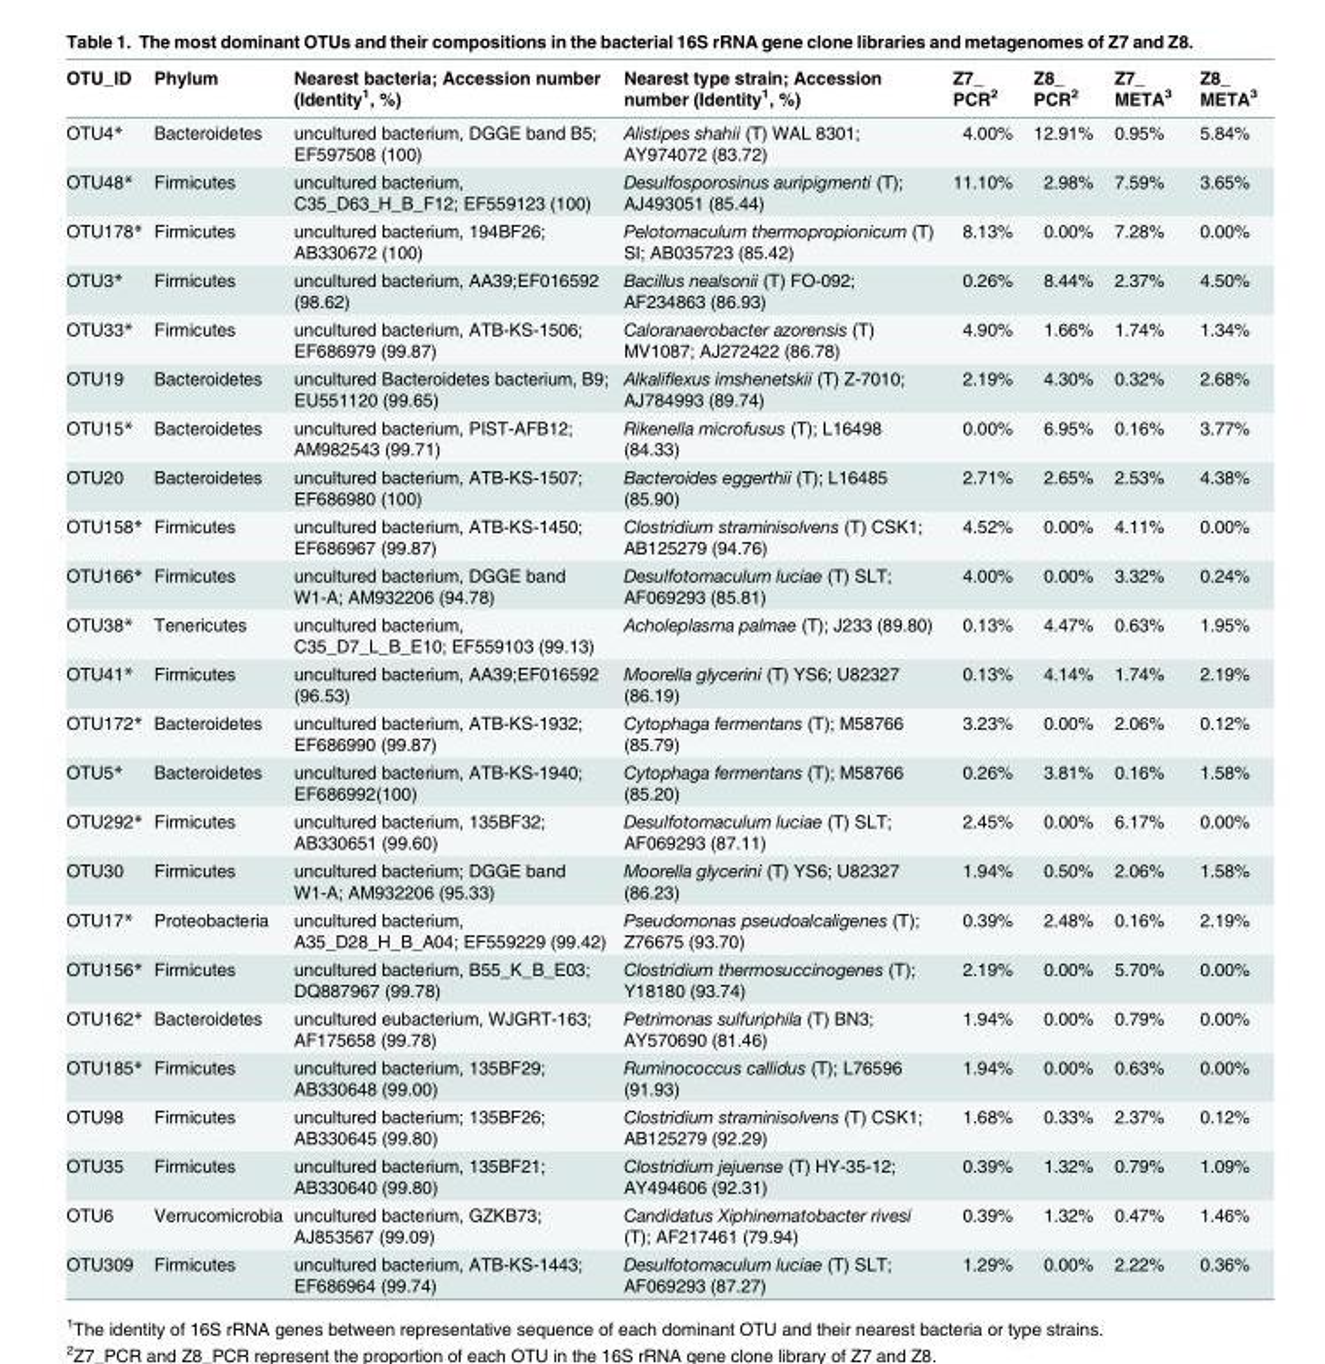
<table><thead><tr><td>OTU_ID</td><td>Phylum</td><td>Nearest bacteria; Accession number (Identity<sup>1</sup>, %)</td><td>Nearest type strain; Accession number (Identity<sup>1</sup>, %)</td><td>Z7_ PCR<sup>2</sup></td><td>Z8_ PCR<sup>2</sup></td><td>Z7_ META<sup>3</sup></td><td>Z8_ META<sup>3</sup></td></tr></thead><tbody><tr><td>OTU4*</td><td>Bacteroidetes</td><td>uncultured bacterium, DGGE band B5; EF597508 (100)</td><td>Alistipes shahii (T) WAL 8301; AY974072 (83.72)</td><td>4.00%</td><td>12.91%</td><td>0.95%</td><td>5.84%</td></tr><tr><td>OTU48*</td><td>Firmicutes</td><td>uncultured bacterium, C35_D63_H_B_F12; EF559123 (100)</td><td>Desulfosporosinus auripigmenti (T); AJ493051 (85.44)</td><td>11.10%</td><td>2.98%</td><td>7.59%</td><td>3.65%</td></tr><tr><td>OTU178*</td><td>Firmicutes</td><td>uncultured bacterium, 194BF26; AB330672 (100)</td><td>Pelotomaculum thermopropionicum (T) SI; AB035723 (85.42)</td><td>8.13%</td><td>0.00%</td><td>7.28%</td><td>0.00%</td></tr><tr><td>OTU3*</td><td>Firmicutes</td><td>uncultured bacterium, AA39;EF016592 (98.62)</td><td>Bacillus nealsonii (T) FO-092; AF234863 (86.93)</td><td>0.26%</td><td>8.44%</td><td>2.37%</td><td>4.50%</td></tr><tr><td>OTU33*</td><td>Firmicutes</td><td>uncultured bacterium, ATB-KS-1506; EF686979 (99.87)</td><td>Caloranaerobacter azorensis (T) MV1087; AJ272422 (86.78)</td><td>4.90%</td><td>1.66%</td><td>1.74%</td><td>1.34%</td></tr><tr><td>OTU19</td><td>Bacteroidetes</td><td>uncultured Bacteroidetes bacterium, B9; EU551120 (99.65)</td><td>Alkaliflexus imshenetskii (T) Z-7010; AJ784993 (89.74)</td><td>2.19%</td><td>4.30%</td><td>0.32%</td><td>2.68%</td></tr><tr><td>OTU15*</td><td>Bacteroidetes</td><td>uncultured bacterium, PIST-AFB12; AM982543 (99.71)</td><td>Rikenella microfusus (T); L16498 (84.33)</td><td>0.00%</td><td>6.95%</td><td>0.16%</td><td>3.77%</td></tr><tr><td>OTU20</td><td>Bacteroidetes</td><td>uncultured bacterium, ATB-KS-1507; EF686980 (100)</td><td>Bacteroides eggerthii (T); L16485 (85.90)</td><td>2.71%</td><td>2.65%</td><td>2.53%</td><td>4.38%</td></tr><tr><td>OTU158*</td><td>Firmicutes</td><td>uncultured bacterium, ATB-KS-1450; EF686967 (99.87)</td><td>Clostridium straminisolvens (T) CSK1; AB125279 (94.76)</td><td>4.52%</td><td>0.00%</td><td>4.11%</td><td>0.00%</td></tr><tr><td>OTU166*</td><td>Firmicutes</td><td>uncultured bacterium, DGGE band W1-A; AM932206 (94.78)</td><td>Desulfotomaculum luciae (T) SLT; AF069293 (85.81)</td><td>4.00%</td><td>0.00%</td><td>3.32%</td><td>0.24%</td></tr><tr><td>OTU38*</td><td>Tenericutes</td><td>uncultured bacterium, C35_D7_L_B_E10; EF559103 (99.13)</td><td>Acholeplasma palmae (T); J233 (89.80)</td><td>0.13%</td><td>4.47%</td><td>0.63%</td><td>1.95%</td></tr><tr><td>OTU41*</td><td>Firmicutes</td><td>uncultured bacterium, AA39;EF016592 (96.53)</td><td>Moorella glycerini (T) YS6; U82327 (86.19)</td><td>0.13%</td><td>4.14%</td><td>1.74%</td><td>2.19%</td></tr><tr><td>OTU172*</td><td>Bacteroidetes</td><td>uncultured bacterium, ATB-KS-1932; EF686990 (99.87)</td><td>Cytophaga fermentans (T); M58766 (85.79)</td><td>3.23%</td><td>0.00%</td><td>2.06%</td><td>0.12%</td></tr><tr><td>OTU5*</td><td>Bacteroidetes</td><td>uncultured bacterium, ATB-KS-1940; EF686992(100)</td><td>Cytophaga fermentans (T); M58766 (85.20)</td><td>0.26%</td><td>3.81%</td><td>0.16%</td><td>1.58%</td></tr><tr><td>OTU292*</td><td>Firmicutes</td><td>uncultured bacterium, 135BF32; AB330651 (99.60)</td><td>Desulfotomaculum luciae (T) SLT; AF069293 (87.11)</td><td>2.45%</td><td>0.00%</td><td>6.17%</td><td>0.00%</td></tr><tr><td>OTU30</td><td>Firmicutes</td><td>uncultured bacterium; DGGE band W1-A; AM932206 (95.33)</td><td>Moorella glycerini (T) YS6; U82327 (86.23)</td><td>1.94%</td><td>0.50%</td><td>2.06%</td><td>1.58%</td></tr><tr><td>OTU17*</td><td>Proteobacteria</td><td>uncultured bacterium, A35_D28_H_B_A04; EF559229 (99.42)</td><td>Pseudomonas pseudoalcaligenes (T); Z76675 (93.70)</td><td>0.39%</td><td>2.48%</td><td>0.16%</td><td>2.19%</td></tr><tr><td>OTU156*</td><td>Firmicutes</td><td>uncultured bacterium, B55_K_B_E03; DQ887967 (99.78)</td><td>Clostridium thermosuccinogenes (T); Y18180 (93.74)</td><td>2.19%</td><td>0.00%</td><td>5.70%</td><td>0.00%</td></tr><tr><td>OTU162*</td><td>Bacteroidetes</td><td>uncultured eubacterium, WJGRT-163; AF175658 (99.78)</td><td>Petrimonas sulfuriphila (T) BN3; AY570690 (81.46)</td><td>1.94%</td><td>0.00%</td><td>0.79%</td><td>0.00%</td></tr><tr><td>OTU185*</td><td>Firmicutes</td><td>uncultured bacterium, 135BF29; AB330648 (99.00)</td><td>Ruminococcus callidus (T); L76596 (91.93)</td><td>1.94%</td><td>0.00%</td><td>0.63%</td><td>0.00%</td></tr><tr><td>OTU98</td><td>Firmicutes</td><td>uncultured bacterium; 135BF26; AB330645 (99.80)</td><td>Clostridium straminisolvens (T) CSK1; AB125279 (92.29)</td><td>1.68%</td><td>0.33%</td><td>2.37%</td><td>0.12%</td></tr><tr><td>OTU35</td><td>Firmicutes</td><td>uncultured bacterium, 135BF21; AB330640 (99.80)</td><td>Clostridium jejuense (T) HY-35-12; AY494606 (92.31)</td><td>0.39%</td><td>1.32%</td><td>0.79%</td><td>1.09%</td></tr><tr><td>OTU6</td><td>Verrucomicrobia</td><td>uncultured bacterium, GZKB73; AJ853567 (99.09)</td><td>Candidatus Xiphinematobacter rivesi (T); AF217461 (79.94)</td><td>0.39%</td><td>1.32%</td><td>0.47%</td><td>1.46%</td></tr><tr><td>OTU309</td><td>Firmicutes</td><td>uncultured bacterium, ATB-KS-1443; EF686964 (99.74)</td><td>Desulfotomaculum luciae (T) SLT; AF069293 (87.27)</td><td>1.29%</td><td>0.00%</td><td>2.22%</td><td>0.36%</td></tr></tbody></table>